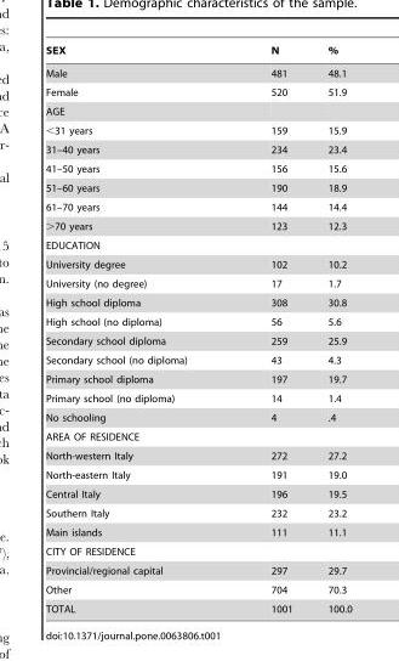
<table><thead><tr><td>SEX</td><td>N</td><td>%</td></tr></thead><tbody><tr><td>Male</td><td>481</td><td>48.1</td></tr><tr><td>Female</td><td>520</td><td>51.9</td></tr><tr><td colspan="3">AGE</td></tr><tr><td>&lt;31 years</td><td>159</td><td>15.9</td></tr><tr><td>31–40 years</td><td>234</td><td>23.4</td></tr><tr><td>41–50 years</td><td>156</td><td>15.6</td></tr><tr><td>51–60 years</td><td>190</td><td>18.9</td></tr><tr><td>61–70 years</td><td>144</td><td>14.4</td></tr><tr><td>&gt;70 years</td><td>123</td><td>12.3</td></tr><tr><td colspan="3">EDUCATION</td></tr><tr><td>University degree</td><td>102</td><td>10.2</td></tr><tr><td>University (no degree)</td><td>17</td><td>1.7</td></tr><tr><td>High school diploma</td><td>308</td><td>30.8</td></tr><tr><td>High school (no diploma)</td><td>56</td><td>5.6</td></tr><tr><td>Secondary school diploma</td><td>259</td><td>25.9</td></tr><tr><td>Secondary school (no diploma)</td><td>43</td><td>4.3</td></tr><tr><td>Primary school diploma</td><td>197</td><td>19.7</td></tr><tr><td>Primary school (no diploma)</td><td>14</td><td>1.4</td></tr><tr><td>No schooling</td><td>4</td><td>.4</td></tr><tr><td colspan="3">AREA OF RESIDENCE</td></tr><tr><td>North-western Italy</td><td>272</td><td>27.2</td></tr><tr><td>North-eastern Italy</td><td>191</td><td>19.0</td></tr><tr><td>Central Italy</td><td>196</td><td>19.5</td></tr><tr><td>Southern Italy</td><td>232</td><td>23.2</td></tr><tr><td>Main islands</td><td>111</td><td>11.1</td></tr><tr><td colspan="3">CITY OF RESIDENCE</td></tr><tr><td>Provincial/regional capital</td><td>297</td><td>29.7</td></tr><tr><td>Other</td><td>704</td><td>70.3</td></tr><tr><td>TOTAL</td><td>1001</td><td>100.0</td></tr></tbody></table>